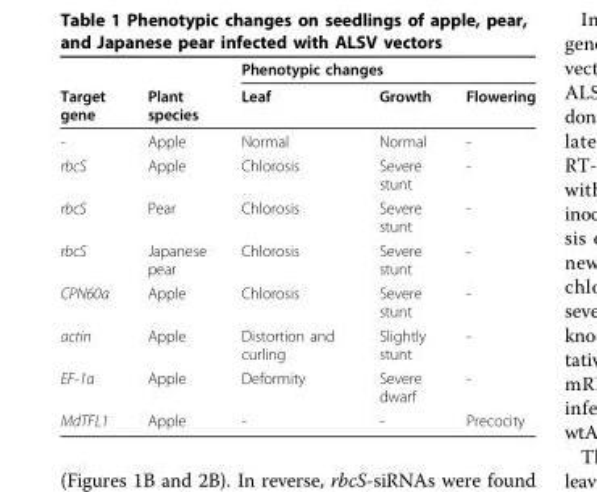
<table><thead><tr><td rowspan="2">Target gene</td><td rowspan="2">Plant species</td><td colspan="3">Phenotypic changes</td></tr><tr><td>Leaf</td><td>Growth</td><td>Flowering</td></tr></thead><tbody><tr><td>-</td><td>Apple</td><td>Normal</td><td>Normal</td><td>-</td></tr><tr><td>rbcS</td><td>Apple</td><td>Chlorosis</td><td>Severe stunt</td><td>-</td></tr><tr><td>rbcS</td><td>Pear</td><td>Chlorosis</td><td>Severe stunt</td><td>-</td></tr><tr><td>rbcS</td><td>Japanese pear</td><td>Chlorosis</td><td>Severe stunt</td><td>-</td></tr><tr><td>CPN60a</td><td>Apple</td><td>Chlorosis</td><td>Severe stunt</td><td>-</td></tr><tr><td>actin</td><td>Apple</td><td>Distortion and curling</td><td>Slightly stunt</td><td>-</td></tr><tr><td>EF-1a</td><td>Apple</td><td>Deformity</td><td>Severe dwarf</td><td>-</td></tr><tr><td>MdTFL1</td><td>Apple</td><td>-</td><td>-</td><td>Precocity</td></tr></tbody></table>